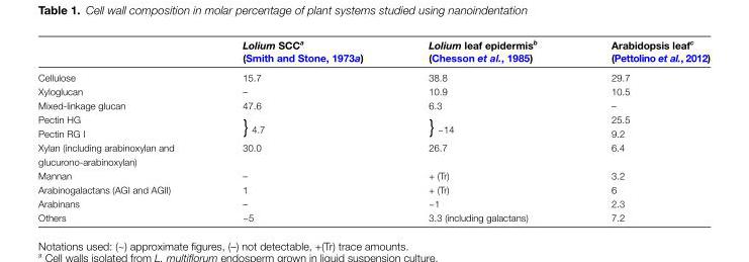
<table><thead><tr><td></td><td>Lolium SCC<sup>a</sup> (Smith and Stone, 1973a)</td><td>Lolium leaf epidermis<sup>b</sup> (Chesson et al., 1985)</td><td>Arabidopsis leaf<sup>c</sup> (Pettolino et al., 2012)</td></tr></thead><tbody><tr><td>Cellulose</td><td>15.7</td><td>38.8</td><td>29.7</td></tr><tr><td>Xyloglucan</td><td>–</td><td>10.9</td><td>10.5</td></tr><tr><td>Mixed-linkage glucan</td><td>47.6</td><td>6.3</td><td>–</td></tr><tr><td>Pectin HG</td><td rowspan="2">} 4.7</td><td rowspan="2">} ~14</td><td>25.5</td></tr><tr><td>Pectin RG I</td><td>9.2</td></tr><tr><td>Xylan (including arabinoxylan and glucurono-arabinoxylan)</td><td>30.0</td><td>26.7</td><td>6.4</td></tr><tr><td>Mannan</td><td>–</td><td>+ (Tr)</td><td>3.2</td></tr><tr><td>Arabinogalactans (AGI and AGII)</td><td>1</td><td>+ (Tr)</td><td>6</td></tr><tr><td>Arabinans</td><td>–</td><td>~1</td><td>2.3</td></tr><tr><td>Others</td><td>~5</td><td>3.3 (including galactans)</td><td>7.2</td></tr></tbody></table>